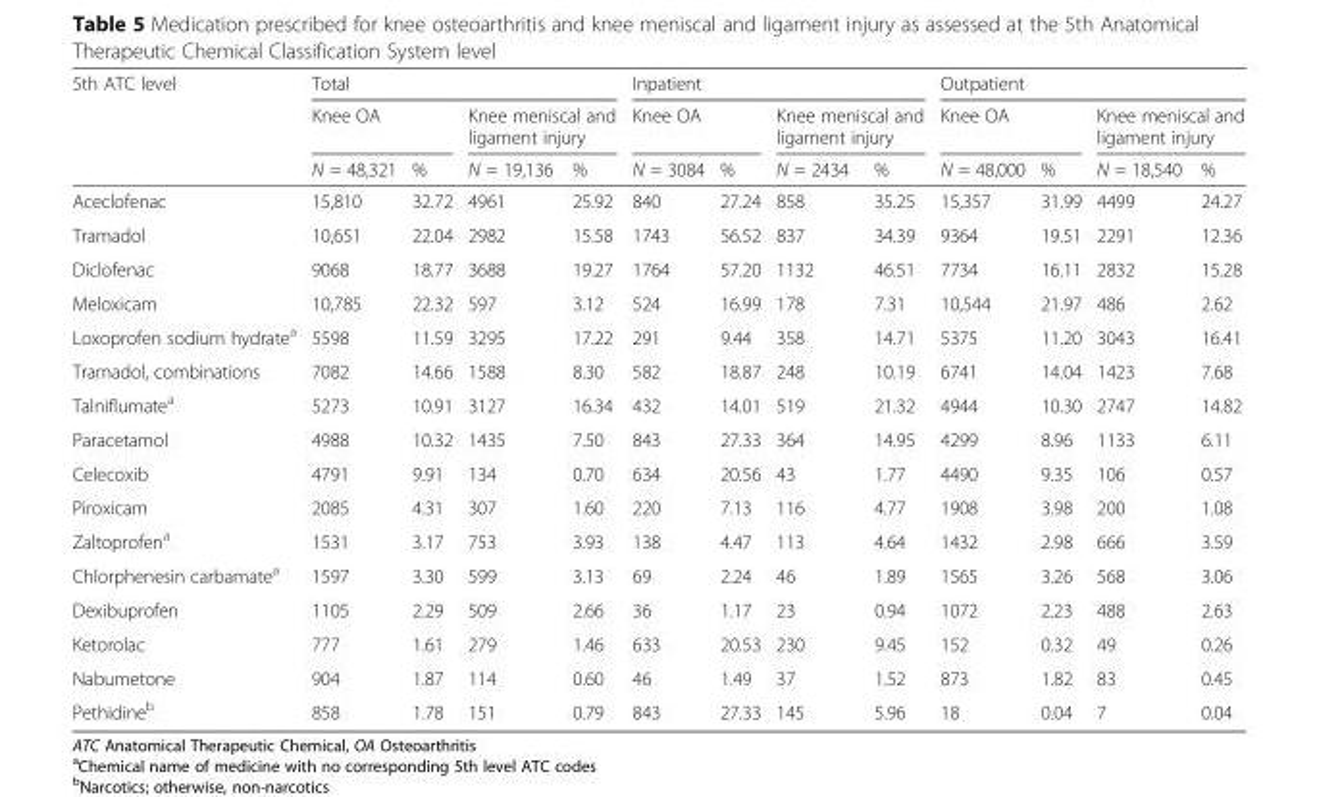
<table><thead><tr><td rowspan="3">5th ATC level</td><td colspan="4">Total</td><td colspan="4">Inpatient</td><td colspan="4">Outpatient</td></tr><tr><td colspan="2">Knee OA</td><td colspan="2">Knee meniscal and ligament injury</td><td colspan="2">Knee OA</td><td colspan="2">Knee meniscal and ligament injury</td><td colspan="2">Knee OA</td><td colspan="2">Knee meniscal and ligament injury</td></tr><tr><td>N = 48,321</td><td>%</td><td>N = 19,136</td><td>%</td><td>N = 3084</td><td>%</td><td>N = 2434</td><td>%</td><td>N = 48,000</td><td>%</td><td>N = 18,540</td><td>%</td></tr></thead><tbody><tr><td>Aceclofenac</td><td>15,810</td><td>32.72</td><td>4961</td><td>25.92</td><td>840</td><td>27.24</td><td>858</td><td>35.25</td><td>15,357</td><td>31.99</td><td>4499</td><td>24.27</td></tr><tr><td>Tramadol</td><td>10,651</td><td>22.04</td><td>2982</td><td>15.58</td><td>1743</td><td>56.52</td><td>837</td><td>34.39</td><td>9364</td><td>19.51</td><td>2291</td><td>12.36</td></tr><tr><td>Diclofenac</td><td>9068</td><td>18.77</td><td>3688</td><td>19.27</td><td>1764</td><td>57.20</td><td>1132</td><td>46.51</td><td>7734</td><td>16.11</td><td>2832</td><td>15.28</td></tr><tr><td>Meloxicam</td><td>10,785</td><td>22.32</td><td>597</td><td>3.12</td><td>524</td><td>16.99</td><td>178</td><td>7.31</td><td>10,544</td><td>21.97</td><td>486</td><td>2.62</td></tr><tr><td>Loxoprofen sodium hydrate<sup>a</sup></td><td>5598</td><td>11.59</td><td>3295</td><td>17.22</td><td>291</td><td>9.44</td><td>358</td><td>14.71</td><td>5375</td><td>11.20</td><td>3043</td><td>16.41</td></tr><tr><td>Tramadol, combinations</td><td>7082</td><td>14.66</td><td>1588</td><td>8.30</td><td>582</td><td>18.87</td><td>248</td><td>10.19</td><td>6741</td><td>14.04</td><td>1423</td><td>7.68</td></tr><tr><td>Talniflumate<sup>a</sup></td><td>5273</td><td>10.91</td><td>3127</td><td>16.34</td><td>432</td><td>14.01</td><td>519</td><td>21.32</td><td>4944</td><td>10.30</td><td>2747</td><td>14.82</td></tr><tr><td>Paracetamol</td><td>4988</td><td>10.32</td><td>1435</td><td>7.50</td><td>843</td><td>27.33</td><td>364</td><td>14.95</td><td>4299</td><td>8.96</td><td>1133</td><td>6.11</td></tr><tr><td>Celecoxib</td><td>4791</td><td>9.91</td><td>134</td><td>0.70</td><td>634</td><td>20.56</td><td>43</td><td>1.77</td><td>4490</td><td>9.35</td><td>106</td><td>0.57</td></tr><tr><td>Piroxicam</td><td>2085</td><td>4.31</td><td>307</td><td>1.60</td><td>220</td><td>7.13</td><td>116</td><td>4.77</td><td>1908</td><td>3.98</td><td>200</td><td>1.08</td></tr><tr><td>Zaltoprofen<sup>a</sup></td><td>1531</td><td>3.17</td><td>753</td><td>3.93</td><td>138</td><td>4.47</td><td>113</td><td>4.64</td><td>1432</td><td>2.98</td><td>666</td><td>3.59</td></tr><tr><td>Chlorphenesin carbamate<sup>a</sup></td><td>1597</td><td>3.30</td><td>599</td><td>3.13</td><td>69</td><td>2.24</td><td>46</td><td>1.89</td><td>1565</td><td>3.26</td><td>568</td><td>3.06</td></tr><tr><td>Dexibuprofen</td><td>1105</td><td>2.29</td><td>509</td><td>2.66</td><td>36</td><td>1.17</td><td>23</td><td>0.94</td><td>1072</td><td>2.23</td><td>488</td><td>2.63</td></tr><tr><td>Ketorolac</td><td>777</td><td>1.61</td><td>279</td><td>1.46</td><td>633</td><td>20.53</td><td>230</td><td>9.45</td><td>152</td><td>0.32</td><td>49</td><td>0.26</td></tr><tr><td>Nabumetone</td><td>904</td><td>1.87</td><td>114</td><td>0.60</td><td>46</td><td>1.49</td><td>37</td><td>1.52</td><td>873</td><td>1.82</td><td>83</td><td>0.45</td></tr><tr><td>Pethidine<sup>b</sup></td><td>858</td><td>1.78</td><td>151</td><td>0.79</td><td>843</td><td>27.33</td><td>145</td><td>5.96</td><td>18</td><td>0.04</td><td>7</td><td>0.04</td></tr></tbody></table>